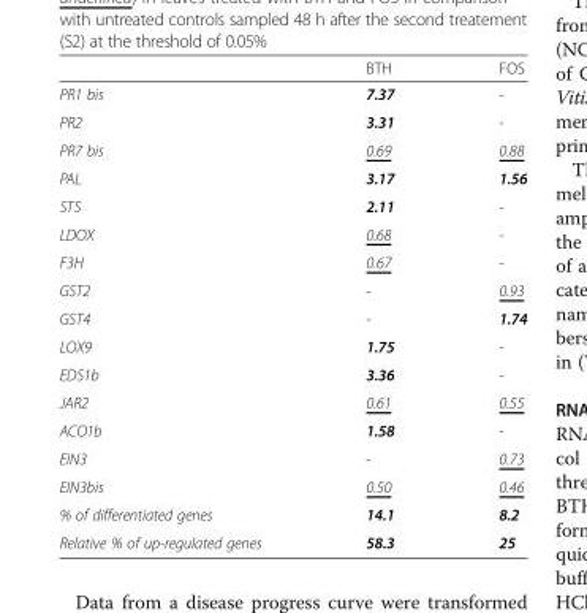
<table><thead><tr><td></td><td>BTH</td><td>FOS</td></tr></thead><tbody><tr><td>PR1 bis</td><td>7.37</td><td>-</td></tr><tr><td>PR2</td><td>3.31</td><td>-</td></tr><tr><td>PR7 bis</td><td>0.69</td><td>0.88</td></tr><tr><td>PAL</td><td>3.17</td><td>1.56</td></tr><tr><td>STS</td><td>2.11</td><td>-</td></tr><tr><td>LDOX</td><td>0.68</td><td>-</td></tr><tr><td>F3H</td><td>0.67</td><td>-</td></tr><tr><td>GST2</td><td>-</td><td>0.93</td></tr><tr><td>GST4</td><td>-</td><td>1.74</td></tr><tr><td>LOX9</td><td>1.75</td><td>-</td></tr><tr><td>EDS1b</td><td>3.36</td><td>-</td></tr><tr><td>JAR2</td><td>0.61</td><td>0.55</td></tr><tr><td>ACO1b</td><td>1.58</td><td>-</td></tr><tr><td>EIN3</td><td>-</td><td>0.73</td></tr><tr><td>EIN3bis</td><td>0.50</td><td>0.46</td></tr><tr><td>% of differentiated genes</td><td>14.1</td><td>8.2</td></tr><tr><td>Relative % of up-regulated genes</td><td>58.3</td><td>25</td></tr></tbody></table>